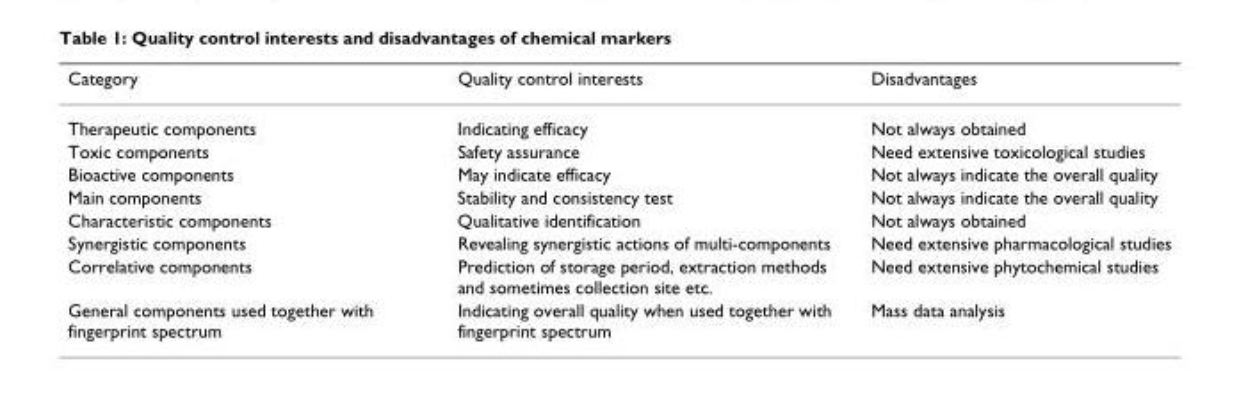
<table><thead><tr><td>Category</td><td>Quality control interests</td><td>Disadvantages</td></tr></thead><tbody><tr><td>Therapeutic components</td><td>Indicating efficacy</td><td>Not always obtained</td></tr><tr><td>Toxic components</td><td>Safety assurance</td><td>Need extensive toxicological studies</td></tr><tr><td>Bioactive components</td><td>May indicate efficacy</td><td>Not always indicate the overall quality</td></tr><tr><td>Main components</td><td>Stability and consistency test</td><td>Not always indicate the overall quality</td></tr><tr><td>Characteristic components</td><td>Qualitative identification</td><td>Not always obtained</td></tr><tr><td>Synergistic components</td><td>Revealing synergistic actions of multi-components</td><td>Need extensive pharmacological studies</td></tr><tr><td>Correlative components</td><td>Prediction of storage period, extraction methods and sometimes collection site etc.</td><td>Need extensive phytochemical studies</td></tr><tr><td>General components used together with fingerprint spectrum</td><td>Indicating overall quality when used together with fingerprint spectrum</td><td>Mass data analysis</td></tr></tbody></table>